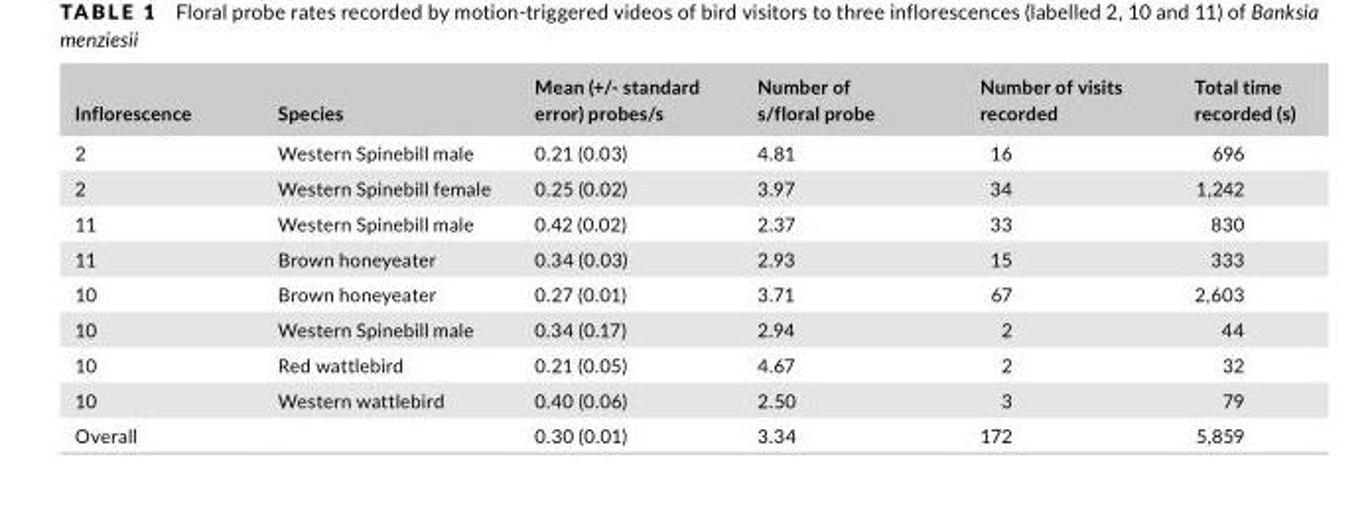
<table><thead><tr><td>Inflorescence</td><td>Species</td><td>Mean (+/- standard error) probes/s</td><td>Number of s/floral probe</td><td>Number of visits recorded</td><td>Total time recorded (s)</td></tr></thead><tbody><tr><td>2</td><td>Western Spinebill male</td><td>0.21 (0.03)</td><td>4.81</td><td>16</td><td>696</td></tr><tr><td>2</td><td>Western Spinebill female</td><td>0.25 (0.02)</td><td>3.97</td><td>34</td><td>1,242</td></tr><tr><td>11</td><td>Western Spinebill male</td><td>0.42 (0.02)</td><td>2.37</td><td>33</td><td>830</td></tr><tr><td>11</td><td>Brown honeyeater</td><td>0.34 (0.03)</td><td>2.93</td><td>15</td><td>333</td></tr><tr><td>10</td><td>Brown honeyeater</td><td>0.27 (0.01)</td><td>3.71</td><td>67</td><td>2,603</td></tr><tr><td>10</td><td>Western Spinebill male</td><td>0.34 (0.17)</td><td>2.94</td><td>2</td><td>44</td></tr><tr><td>10</td><td>Red wattlebird</td><td>0.21 (0.05)</td><td>4.67</td><td>2</td><td>32</td></tr><tr><td>10</td><td>Western wattlebird</td><td>0.40 (0.06)</td><td>2.50</td><td>3</td><td>79</td></tr><tr><td>Overall</td><td></td><td>0.30 (0.01)</td><td>3.34</td><td>172</td><td>5,859</td></tr></tbody></table>